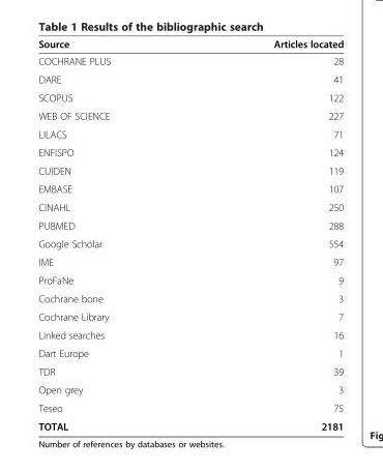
<table><thead><tr><td>Source</td><td>Articles located</td></tr></thead><tbody><tr><td>COCHRANE PLUS</td><td>28</td></tr><tr><td>DARE</td><td>41</td></tr><tr><td>SCOPUS</td><td>122</td></tr><tr><td>WEB OF SCIENCE</td><td>227</td></tr><tr><td>LILACS</td><td>71</td></tr><tr><td>ENFISPO</td><td>124</td></tr><tr><td>CUIDEN</td><td>119</td></tr><tr><td>EMBASE</td><td>107</td></tr><tr><td>CINAHL</td><td>250</td></tr><tr><td>PUBMED</td><td>288</td></tr><tr><td>Google Scholar</td><td>554</td></tr><tr><td>IME</td><td>97</td></tr><tr><td>ProFaNe</td><td>9</td></tr><tr><td>Cochrane bone</td><td>3</td></tr><tr><td>Cochrane Library</td><td>7</td></tr><tr><td>Linked searches</td><td>16</td></tr><tr><td>Dart Europe</td><td>1</td></tr><tr><td>TDR</td><td>39</td></tr><tr><td>Open grey</td><td>3</td></tr><tr><td>Teseo</td><td>75</td></tr><tr><td>TOTAL</td><td>2181</td></tr></tbody></table>